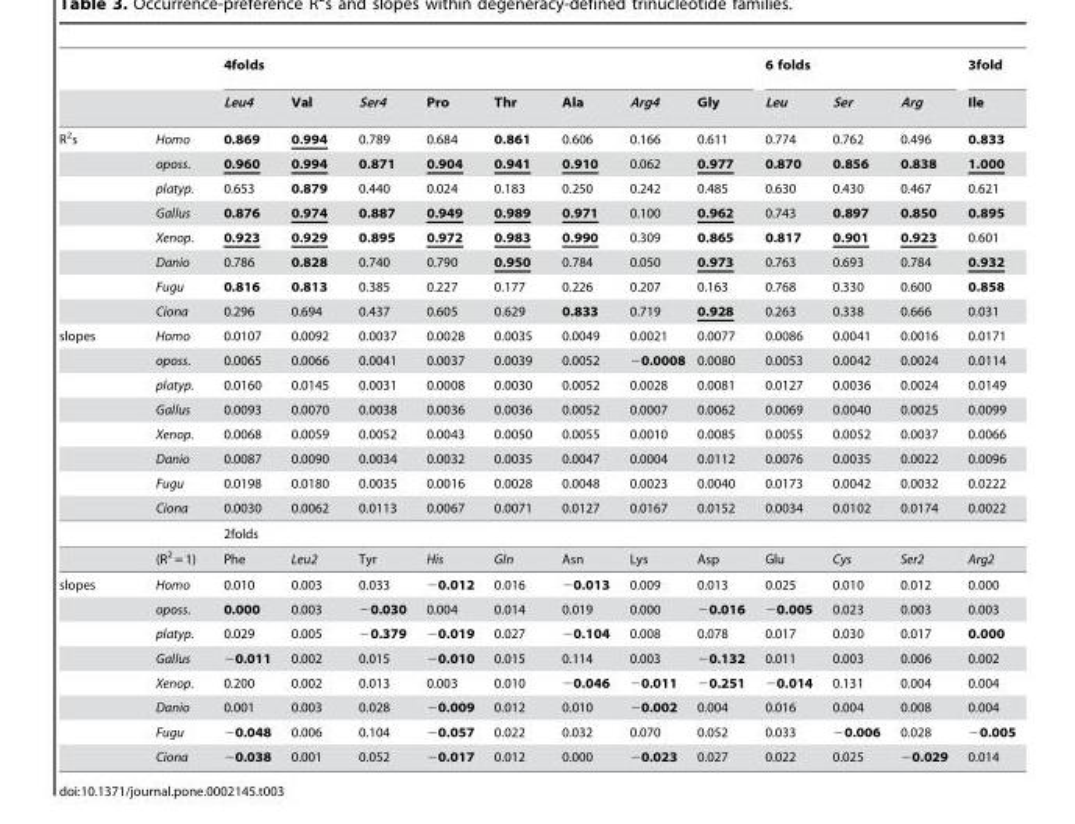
<table><thead><tr><td rowspan="2"></td><td rowspan="2"></td><td colspan="8">4folds</td><td colspan="3">6 folds</td><td rowspan="2">3fold Ile</td></tr><tr><td>Leu4</td><td>Val</td><td>Ser4</td><td>Pro</td><td>Thr</td><td>Ala</td><td>Arg4</td><td>Gly</td><td>Leu</td><td>Ser</td><td>Arg</td></tr></thead><tbody><tr><td rowspan="8">R<sup>2</sup>s</td><td>Homo</td><td>0.869</td><td>0.994</td><td>0.789</td><td>0.684</td><td>0.861</td><td>0.606</td><td>0.166</td><td>0.611</td><td>0.774</td><td>0.762</td><td>0.496</td><td>0.833</td></tr><tr><td>oposs.</td><td>0.960</td><td>0.994</td><td>0.871</td><td>0.904</td><td>0.941</td><td>0.910</td><td>0.062</td><td>0.977</td><td>0.870</td><td>0.856</td><td>0.838</td><td>1.000</td></tr><tr><td>platyp.</td><td>0.653</td><td>0.879</td><td>0.440</td><td>0.024</td><td>0.183</td><td>0.250</td><td>0.242</td><td>0.485</td><td>0.630</td><td>0.430</td><td>0.467</td><td>0.621</td></tr><tr><td>Gallus</td><td>0.876</td><td>0.974</td><td>0.887</td><td>0.949</td><td>0.989</td><td>0.971</td><td>0.100</td><td>0.962</td><td>0.743</td><td>0.897</td><td>0.850</td><td>0.895</td></tr><tr><td>Xenop.</td><td>0.923</td><td>0.929</td><td>0.895</td><td>0.972</td><td>0.983</td><td>0.990</td><td>0.309</td><td>0.865</td><td>0.817</td><td>0.901</td><td>0.923</td><td>0.601</td></tr><tr><td>Danio</td><td>0.786</td><td>0.828</td><td>0.740</td><td>0.790</td><td>0.950</td><td>0.784</td><td>0.050</td><td>0.973</td><td>0.763</td><td>0.693</td><td>0.784</td><td>0.932</td></tr><tr><td>Fugu</td><td>0.816</td><td>0.813</td><td>0.385</td><td>0.227</td><td>0.177</td><td>0.226</td><td>0.207</td><td>0.163</td><td>0.768</td><td>0.330</td><td>0.600</td><td>0.858</td></tr><tr><td>Ciona</td><td>0.296</td><td>0.694</td><td>0.437</td><td>0.605</td><td>0.629</td><td>0.833</td><td>0.719</td><td>0.928</td><td>0.263</td><td>0.338</td><td>0.666</td><td>0.031</td></tr><tr><td rowspan="10">slopes</td><td>Homo</td><td>0.0107</td><td>0.0092</td><td>0.0037</td><td>0.0028</td><td>0.0035</td><td>0.0049</td><td>0.0021</td><td>0.0077</td><td>0.0086</td><td>0.0041</td><td>0.0016</td><td>0.0171</td></tr><tr><td>oposs.</td><td>0.0065</td><td>0.0066</td><td>0.0041</td><td>0.0037</td><td>0.0039</td><td>0.0052</td><td>−0.0008</td><td>0.0080</td><td>0.0053</td><td>0.0042</td><td>0.0024</td><td>0.0114</td></tr><tr><td>platyp.</td><td>0.0160</td><td>0.0145</td><td>0.0031</td><td>0.0008</td><td>0.0030</td><td>0.0052</td><td>0.0028</td><td>0.0081</td><td>0.0127</td><td>0.0036</td><td>0.0024</td><td>0.0149</td></tr><tr><td>Gallus</td><td>0.0093</td><td>0.0070</td><td>0.0038</td><td>0.0036</td><td>0.0036</td><td>0.0052</td><td>0.0007</td><td>0.0062</td><td>0.0069</td><td>0.0040</td><td>0.0025</td><td>0.0099</td></tr><tr><td>Xenop.</td><td>0.0068</td><td>0.0059</td><td>0.0052</td><td>0.0043</td><td>0.0050</td><td>0.0055</td><td>0.0010</td><td>0.0085</td><td>0.0055</td><td>0.0052</td><td>0.0037</td><td>0.0066</td></tr><tr><td>Danio</td><td>0.0087</td><td>0.0090</td><td>0.0034</td><td>0.0032</td><td>0.0035</td><td>0.0047</td><td>0.0004</td><td>0.0112</td><td>0.0076</td><td>0.0035</td><td>0.0022</td><td>0.0096</td></tr><tr><td>Fugu</td><td>0.0198</td><td>0.0180</td><td>0.0035</td><td>0.0016</td><td>0.0028</td><td>0.0048</td><td>0.0023</td><td>0.0040</td><td>0.0173</td><td>0.0042</td><td>0.0032</td><td>0.0222</td></tr><tr><td>Ciona</td><td>0.0030</td><td>0.0062</td><td>0.0113</td><td>0.0067</td><td>0.0071</td><td>0.0127</td><td>0.0167</td><td>0.0152</td><td>0.0034</td><td>0.0102</td><td>0.0174</td><td>0.0022</td></tr><tr><td></td><td colspan="12">2folds</td></tr><tr><td>(R<sup>2</sup> = 1)</td><td>Phe</td><td>Leu2</td><td>Tyr</td><td>His</td><td>Gln</td><td>Asn</td><td>Lys</td><td>Asp</td><td>Glu</td><td>Cys</td><td>Ser2</td><td>Arg2</td></tr><tr><td rowspan="8">slopes</td><td>Homo</td><td>0.010</td><td>0.003</td><td>0.033</td><td>−0.012</td><td>0.016</td><td>−0.013</td><td>0.009</td><td>0.013</td><td>0.025</td><td>0.010</td><td>0.012</td><td>0.000</td></tr><tr><td>oposs.</td><td>0.000</td><td>0.003</td><td>−0.030</td><td>0.004</td><td>0.014</td><td>0.019</td><td>0.000</td><td>−0.016</td><td>−0.005</td><td>0.023</td><td>0.003</td><td>0.003</td></tr><tr><td>platyp.</td><td>0.029</td><td>0.005</td><td>−0.379</td><td>−0.019</td><td>0.027</td><td>−0.104</td><td>0.008</td><td>0.078</td><td>0.017</td><td>0.030</td><td>0.017</td><td>0.000</td></tr><tr><td>Gallus</td><td>−0.011</td><td>0.002</td><td>0.015</td><td>−0.010</td><td>0.015</td><td>0.114</td><td>0.003</td><td>−0.132</td><td>0.011</td><td>0.003</td><td>0.006</td><td>0.002</td></tr><tr><td>Xenop.</td><td>0.200</td><td>0.002</td><td>0.013</td><td>0.003</td><td>0.010</td><td>−0.046</td><td>−0.011</td><td>−0.251</td><td>−0.014</td><td>0.131</td><td>0.004</td><td>0.004</td></tr><tr><td>Danio</td><td>0.001</td><td>0.003</td><td>0.028</td><td>−0.009</td><td>0.012</td><td>0.010</td><td>−0.002</td><td>0.004</td><td>0.016</td><td>0.004</td><td>0.008</td><td>0.004</td></tr><tr><td>Fugu</td><td>−0.048</td><td>0.006</td><td>0.104</td><td>−0.057</td><td>0.022</td><td>0.032</td><td>0.070</td><td>0.052</td><td>0.033</td><td>−0.006</td><td>0.028</td><td>−0.005</td></tr><tr><td>Ciona</td><td>−0.038</td><td>0.001</td><td>0.052</td><td>−0.017</td><td>0.012</td><td>0.000</td><td>−0.023</td><td>0.027</td><td>0.022</td><td>0.025</td><td>−0.029</td><td>0.014</td></tr></tbody></table>